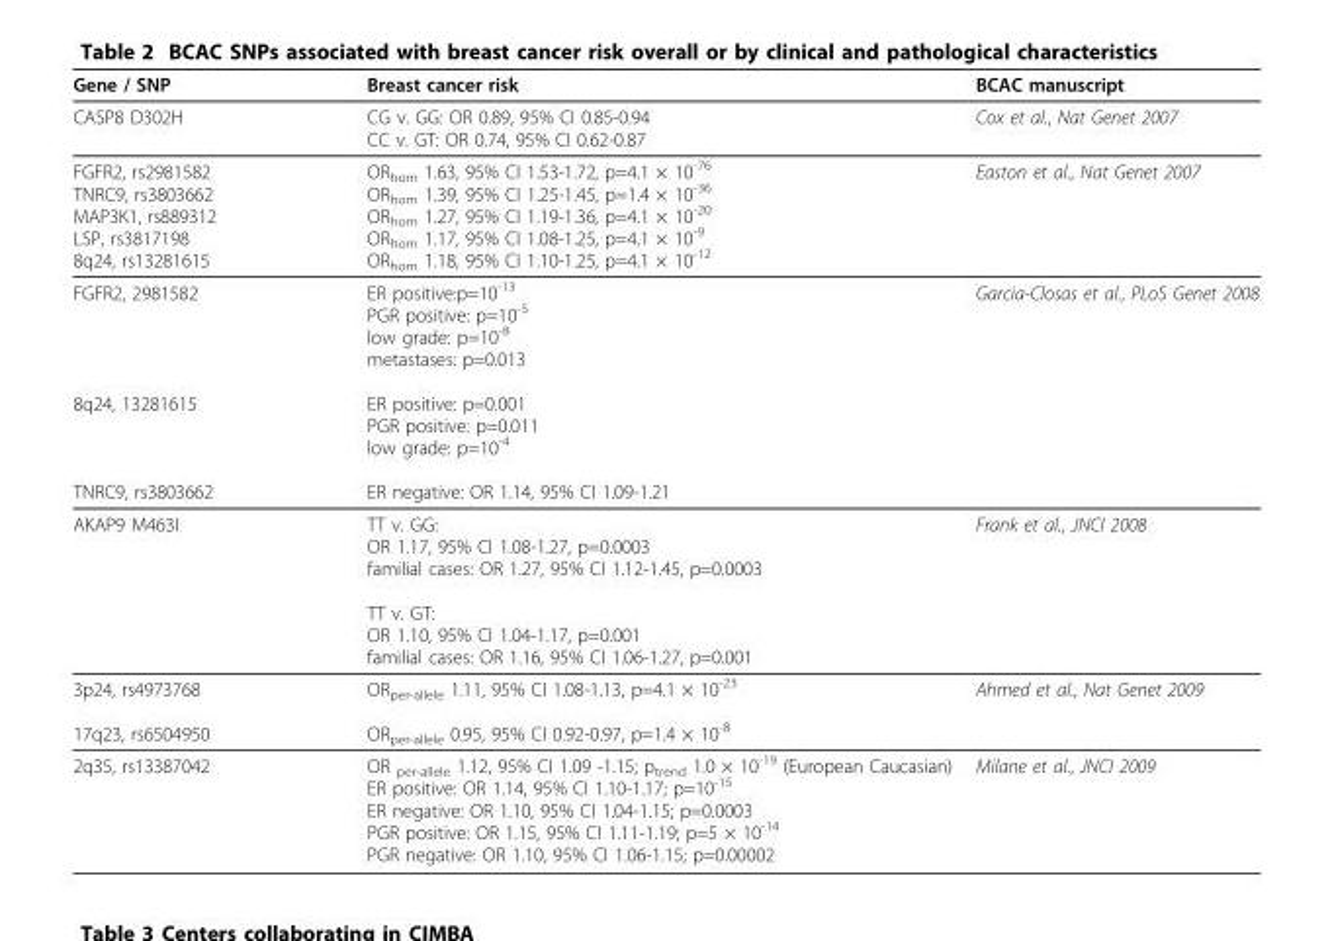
<table><thead><tr><td>Gene / SNP</td><td>Breast cancer risk</td><td>BCAC manuscript</td></tr></thead><tbody><tr><td>CASP8 D302H</td><td>CG v. GG: OR 0.89, 95% CI 0.85-0.94 CC v. GT: OR 0.74, 95% CI 0.62-0.87</td><td>Cox et al., Nat Genet 2007</td></tr><tr><td>FGFR2, rs2981582 TNRC9, rs3803662 MAP3K1, rs889312 LSP, rs3817198 8q24, rs13281615</td><td>OR<sub>hom</sub> 1.63, 95% CI 1.53-1.72, p=4.1 × 10<sup>-76</sup> OR<sub>hom</sub> 1.39, 95% CI 1.25-1.45, p=1.4 × 10<sup>-36</sup> OR<sub>hom</sub> 1.27, 95% CI 1.19-1.36, p=4.1 × 10<sup>-20</sup> OR<sub>hom</sub> 1.17, 95% CI 1.08-1.25, p=4.1 × 10<sup>-9</sup> OR<sub>hom</sub> 1.18, 95% CI 1.10-1.25, p=4.1 × 10<sup>-12</sup></td><td>Easton et al., Nat Genet 2007</td></tr><tr><td>FGFR2, 2981582 8q24, 13281615 TNRC9, rs3803662</td><td>ER positive:p=10<sup>-13</sup> PGR positive: p=10<sup>-5</sup> low grade: p=10<sup>-8</sup> metastases: p=0.013 ER positive: p=0.001 PGR positive: p=0.011 low grade: p=10<sup>-4</sup> ER negative: OR 1.14, 95% CI 1.09-1.21</td><td>Garcia-Closas et al., PLoS Genet 2008</td></tr><tr><td>AKAP9 M463I</td><td>TT v. GG: OR 1.17, 95% CI 1.08-1.27, p=0.0003 familial cases: OR 1.27, 95% CI 1.12-1.45, p=0.0003 TT v. GT: OR 1.10, 95% CI 1.04-1.17, p=0.001 familial cases: OR 1.16, 95% CI 1.06-1.27, p=0.001</td><td>Frank et al., JNCI 2008</td></tr><tr><td>3p24, rs4973768 17q23, rs6504950</td><td>OR<sub>per-allele</sub> 1.11, 95% CI 1.08-1.13, p=4.1 × 10<sup>-23</sup> OR<sub>per-allele</sub> 0.95, 95% CI 0.92-0.97, p=1.4 × 10<sup>-8</sup></td><td>Ahmed et al., Nat Genet 2009</td></tr><tr><td>2q35, rs13387042</td><td>OR <sub>per-allele</sub> 1.12, 95% CI 1.09 -1.15; p<sub>trend</sub> 1.0 × 10<sup>-19</sup> (European Caucasian) ER positive: OR 1.14, 95% CI 1.10-1.17; p=10<sup>-15</sup> ER negative: OR 1.10, 95% CI 1.04-1.15; p=0.0003 PGR positive: OR 1.15, 95% CI 1.11-1.19; p=5 × 10<sup>-14</sup> PGR negative: OR 1.10, 95% CI 1.06-1.15; p=0.00002</td><td>Milane et al., JNCI 2009</td></tr></tbody></table>